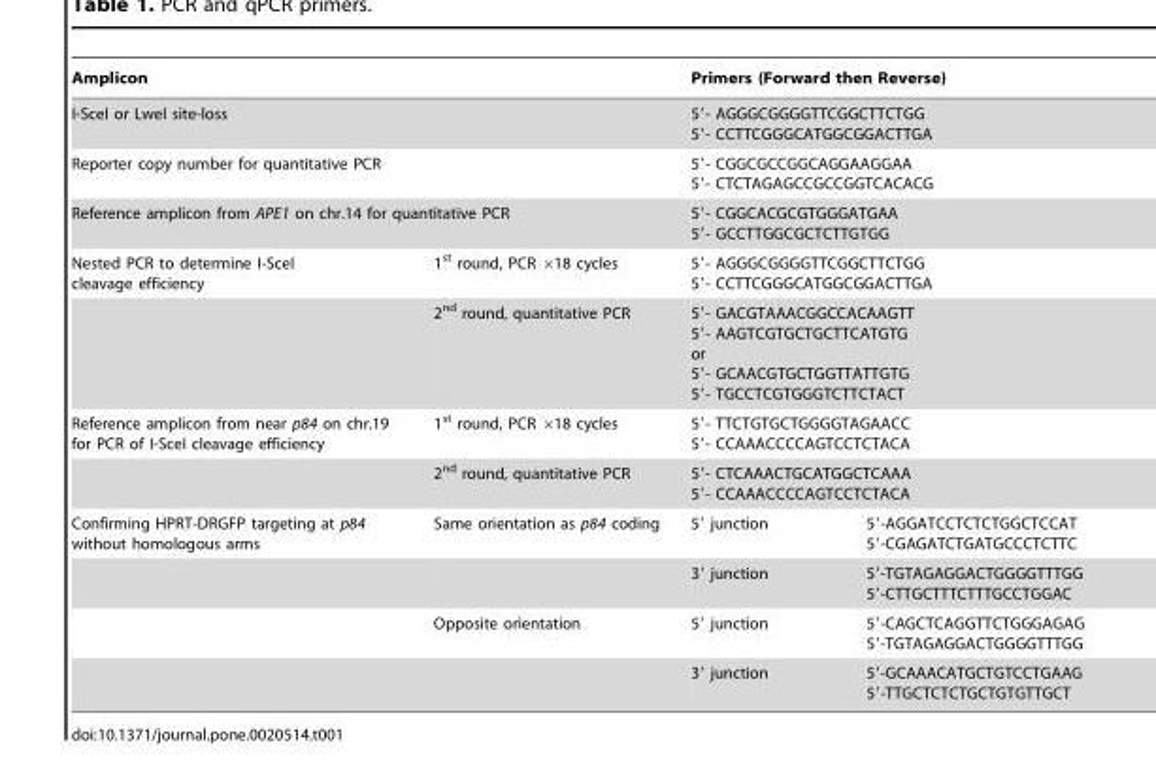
<table><thead><tr><td colspan="2">Amplicon</td><td colspan="2">Primers (Forward then Reverse)</td></tr></thead><tbody><tr><td colspan="2">I-SceI or LweI site-loss</td><td colspan="2">5′- AGGGCGGGGTTCGGCTTCTGG 5′- CCTTCGGGCATGGCGGACTTGA</td></tr><tr><td colspan="2">Reporter copy number for quantitative PCR</td><td colspan="2">5′- CGGCGCCGGCAGGAAGGAA 5′- CTCTAGAGCCGCCGGTCACACG</td></tr><tr><td colspan="2">Reference amplicon from APE1 on chr.14 for quantitative PCR</td><td colspan="2">5′- CGGCACGCGTGGGATGAA 5′- GCCTTGGCGCTCTTGTGG</td></tr><tr><td rowspan="2">Nested PCR to determine I-SceI cleavage efficiency</td><td>1<sup>st</sup> round, PCR ×18 cycles</td><td colspan="2">5′- AGGGCGGGGTTCGGCTTCTGG 5′- CCTTCGGGCATGGCGGACTTGA</td></tr><tr><td>2<sup>nd</sup> round, quantitative PCR</td><td colspan="2">5′- GACGTAAACGGCCACAAGTT 5′- AAGTCGTGCTGCTTCATGTG or 5′- GCAACGTGCTGGTTATTGTG 5′- TGCCTCGTGGGTCTTCTACT</td></tr><tr><td rowspan="2">Reference amplicon from near p84 on chr.19 for PCR of I-SceI cleavage efficiency</td><td>1<sup>st</sup> round, PCR ×18 cycles</td><td colspan="2">5′- TTCTGTGCTGGGGTAGAACC 5′- CCAAACCCCAGTCCTCTACA</td></tr><tr><td>2<sup>nd</sup> round, quantitative PCR</td><td colspan="2">5′- CTCAAACTGCATGGCTCAAA 5′- CCAAACCCCAGTCCTCTACA</td></tr><tr><td rowspan="4">Confirming HPRT-DRGFP targeting at p84 without homologous arms</td><td>Same orientation as p84 coding</td><td>5′ junction</td><td>5′-AGGATCCTCTCTGGCTCCAT 5′-CGAGATCTGATGCCCTCTTC</td></tr><tr><td></td><td>3′ junction</td><td>5′-TGTAGAGGACTGGGGTTTGG 5′-CTTGCTTTCTTTGCCTGGAC</td></tr><tr><td>Opposite orientation</td><td>5′ junction</td><td>5′-CAGCTCAGGTTCTGGGAGAG 5′-TGTAGAGGACTGGGGTTTGG</td></tr><tr><td></td><td>3′ junction</td><td>5′-GCAAACATGCTGTCCTGAAG 5′-TTGCTCTCTGCTGTGTTGCT</td></tr></tbody></table>